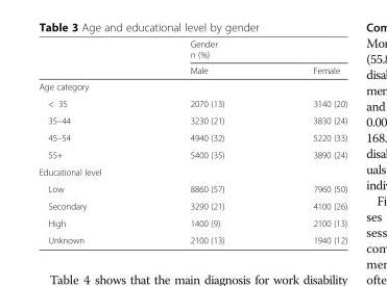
<table><thead><tr><td rowspan="2"></td><td colspan="2">Gender n (%)</td></tr><tr><td>Male</td><td>Female</td></tr></thead><tbody><tr><td colspan="3">Age category</td></tr><tr><td>&lt; 35</td><td>2070 (13)</td><td>3140 (20)</td></tr><tr><td>35–44</td><td>3230 (21)</td><td>3830 (24)</td></tr><tr><td>45–54</td><td>4940 (32)</td><td>5220 (33)</td></tr><tr><td>55+</td><td>5400 (35)</td><td>3890 (24)</td></tr><tr><td colspan="3">Educational level</td></tr><tr><td>Low</td><td>8860 (57)</td><td>7960 (50)</td></tr><tr><td>Secondary</td><td>3290 (21)</td><td>4100 (26)</td></tr><tr><td>High</td><td>1400 (9)</td><td>2100 (13)</td></tr><tr><td>Unknown</td><td>2100 (13)</td><td>1940 (12)</td></tr></tbody></table>